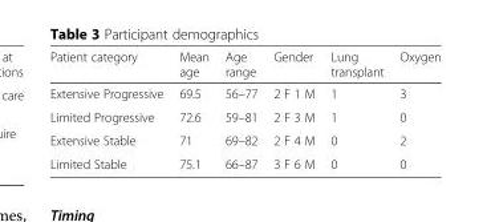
<table><thead><tr><td>Patient category</td><td>Mean age</td><td>Age range</td><td>Gender</td><td>Lung transplant</td><td>Oxygen</td></tr></thead><tbody><tr><td>Extensive Progressive</td><td>69.5</td><td>56–77</td><td>2 F 1 M</td><td>1</td><td>3</td></tr><tr><td>Limited Progressive</td><td>72.6</td><td>59–81</td><td>2 F 3 M</td><td>1</td><td>0</td></tr><tr><td>Extensive Stable</td><td>71</td><td>69–82</td><td>2 F 4 M</td><td>0</td><td>2</td></tr><tr><td>Limited Stable</td><td>75.1</td><td>66–87</td><td>3 F 6 M</td><td>0</td><td>0</td></tr></tbody></table>